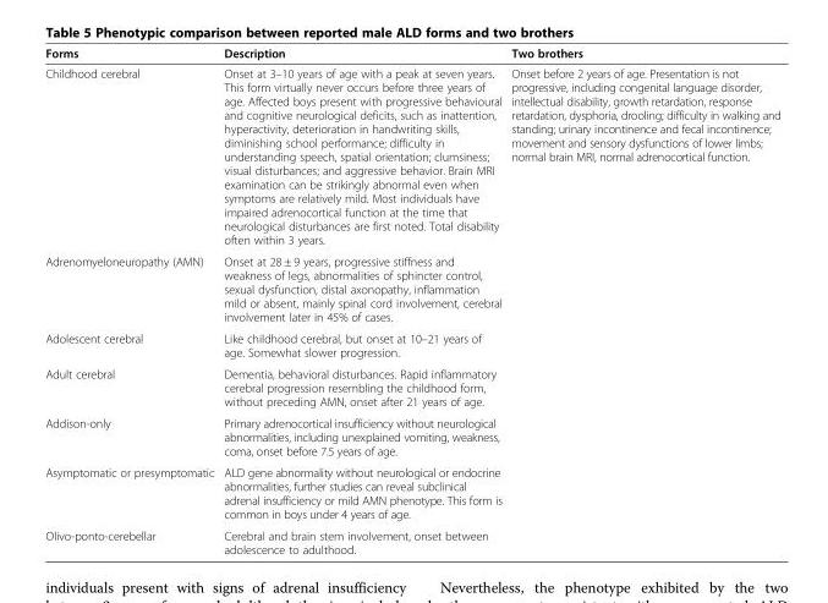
<table><thead><tr><td>Forms</td><td>Description</td><td>Two brothers</td></tr></thead><tbody><tr><td>Childhood cerebral</td><td>Onset at 3–10 years of age with a peak at seven years. This form virtually never occurs before three years of age. Affected boys present with progressive behavioural and cognitive neurological deficits, such as inattention, hyperactivity, deterioration in handwriting skills, diminishing school performance; difficulty in understanding speech, spatial orientation; clumsiness; visual disturbances; and aggressive behavior. Brain MRI examination can be strikingly abnormal even when symptoms are relatively mild. Most individuals have impaired adrenocortical function at the time that neurological disturbances are first noted. Total disability often within 3 years.</td><td rowspan="7">Onset before 2 years of age. Presentation is not progressive, including congenital language disorder, intellectual disability, growth retardation, response retardation, dysphoria, drooling; difficulty in walking and standing; urinary incontinence and fecal incontinence; movement and sensory dysfunctions of lower limbs; normal brain MRI, normal adrenocortical function.</td></tr><tr><td>Adrenomyeloneuropathy (AMN)</td><td>Onset at 28 ± 9 years, progressive stiffness and weakness of legs, abnormalities of sphincter control, sexual dysfunction, distal axonopathy, inflammation mild or absent, mainly spinal cord involvement, cerebral involvement later in 45% of cases.</td></tr><tr><td>Adolescent cerebral</td><td>Like childhood cerebral, but onset at 10–21 years of age. Somewhat slower progression.</td></tr><tr><td>Adult cerebral</td><td>Dementia, behavioral disturbances. Rapid inflammatory cerebral progression resembling the childhood form, without preceding AMN, onset after 21 years of age.</td></tr><tr><td>Addison-only</td><td>Primary adrenocortical insufficiency without neurological abnormalities, including unexplained vomiting, weakness, coma, onset before 7.5 years of age.</td></tr><tr><td>Asymptomatic or presymptomatic</td><td>ALD gene abnormality without neurological or endocrine abnormalities, further studies can reveal subclinical adrenal insufficiency or mild AMN phenotype. This form is common in boys under 4 years of age.</td></tr><tr><td>Olivo-ponto-cerebellar</td><td>Cerebral and brain stem involvement, onset between adolescence to adulthood.</td></tr></tbody></table>